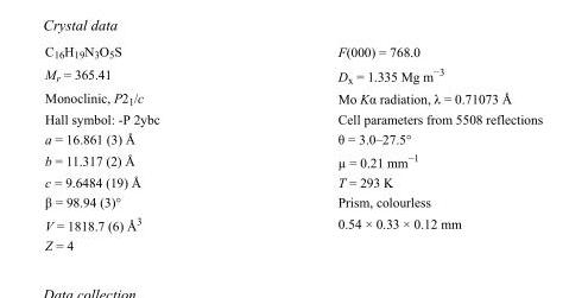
<table><tbody><tr><td>C<sub>16</sub>H<sub>19</sub>N<sub>3</sub>O<sub>5</sub>S</td><td>F(000) = 768.0</td></tr><tr><td>M<sub>r</sub> = 365.41</td><td>D<sub>x</sub> = 1.335 Mg m<sup>−3</sup></td></tr><tr><td>Monoclinic, P2<sub>1</sub>/c</td><td>Mo Kα radiation, λ = 0.71073 Å</td></tr><tr><td>Hall symbol: -P 2ybc</td><td>Cell parameters from 5508 reflections</td></tr><tr><td>a = 16.861 (3) Å</td><td>θ = 3.0–27.5°</td></tr><tr><td>b = 11.317 (2) Å</td><td>µ = 0.21 mm<sup>−1</sup></td></tr><tr><td>c = 9.6484 (19) Å</td><td>T = 293 K</td></tr><tr><td>β = 98.94 (3)°</td><td>Prism, colourless</td></tr><tr><td>V = 1818.7 (6) Å<sup>3</sup></td><td>0.54 × 0.33 × 0.12 mm</td></tr><tr><td>Z = 4</td><td></td></tr></tbody></table>